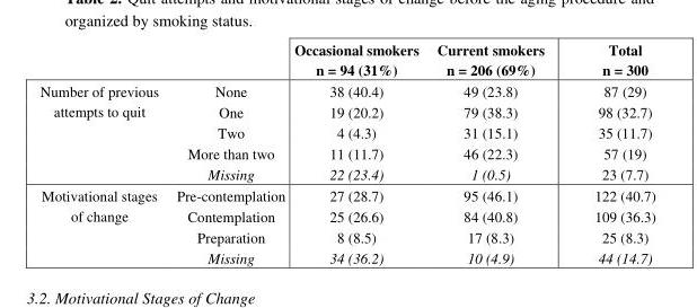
<table><thead><tr><td></td><td></td><td>Occasional smokers n = 94 (31%)</td><td>Current smokers n = 206 (69%)</td><td>Total n = 300</td></tr></thead><tbody><tr><td rowspan="5">Number of previous attempts to quit</td><td>None</td><td>38 (40.4)</td><td>49 (23.8)</td><td>87 (29)</td></tr><tr><td>One</td><td>19 (20.2)</td><td>79 (38.3)</td><td>98 (32.7)</td></tr><tr><td>Two</td><td>4 (4.3)</td><td>31 (15.1)</td><td>35 (11.7)</td></tr><tr><td>More than two</td><td>11 (11.7)</td><td>46 (22.3)</td><td>57 (19)</td></tr><tr><td>Missing</td><td>22 (23.4)</td><td>1 (0.5)</td><td>23 (7.7)</td></tr><tr><td rowspan="4">Motivational stages of change</td><td>Pre-contemplation</td><td>27 (28.7)</td><td>95 (46.1)</td><td>122 (40.7)</td></tr><tr><td>Contemplation</td><td>25 (26.6)</td><td>84 (40.8)</td><td>109 (36.3)</td></tr><tr><td>Preparation</td><td>8 (8.5)</td><td>17 (8.3)</td><td>25 (8.3)</td></tr><tr><td>Missing</td><td>34 (36.2)</td><td>10 (4.9)</td><td>44 (14.7)</td></tr></tbody></table>